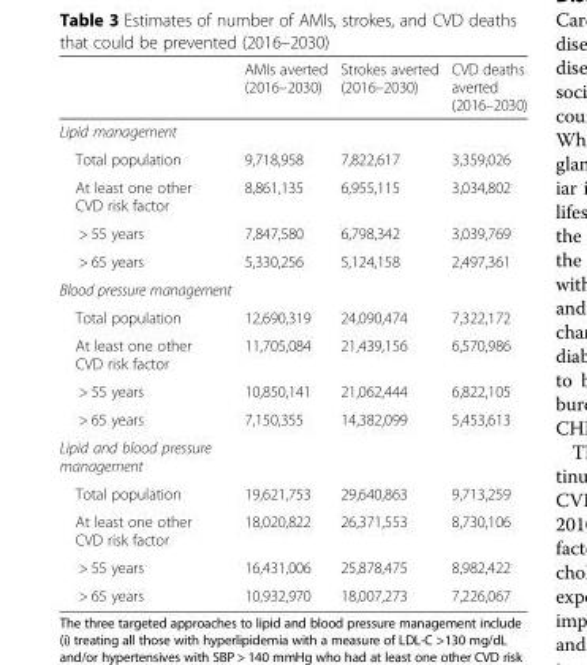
<table><thead><tr><td></td><td>AMIs averted (2016–2030)</td><td>Strokes averted (2016–2030)</td><td>CVD deaths averted (2016–2030)</td></tr></thead><tbody><tr><td colspan="4">Lipid management</td></tr><tr><td>Total population</td><td>9,718,958</td><td>7,822,617</td><td>3,359,026</td></tr><tr><td>At least one other CVD risk factor</td><td>8,861,135</td><td>6,955,115</td><td>3,034,802</td></tr><tr><td>&gt; 55 years</td><td>7,847,580</td><td>6,798,342</td><td>3,039,769</td></tr><tr><td>&gt; 65 years</td><td>5,330,256</td><td>5,124,158</td><td>2,497,361</td></tr><tr><td colspan="4">Blood pressure management</td></tr><tr><td>Total population</td><td>12,690,319</td><td>24,090,474</td><td>7,322,172</td></tr><tr><td>At least one other CVD risk factor</td><td>11,705,084</td><td>21,439,156</td><td>6,570,986</td></tr><tr><td>&gt; 55 years</td><td>10,850,141</td><td>21,062,444</td><td>6,822,105</td></tr><tr><td>&gt; 65 years</td><td>7,150,355</td><td>14,382,099</td><td>5,453,613</td></tr><tr><td colspan="4">Lipid and blood pressure management</td></tr><tr><td>Total population</td><td>19,621,753</td><td>29,640,863</td><td>9,713,259</td></tr><tr><td>At least one other CVD risk factor</td><td>18,020,822</td><td>26,371,553</td><td>8,730,106</td></tr><tr><td>&gt; 55 years</td><td>16,431,006</td><td>25,878,475</td><td>8,982,422</td></tr><tr><td>&gt; 65 years</td><td>10,932,970</td><td>18,007,273</td><td>7,226,067</td></tr></tbody></table>